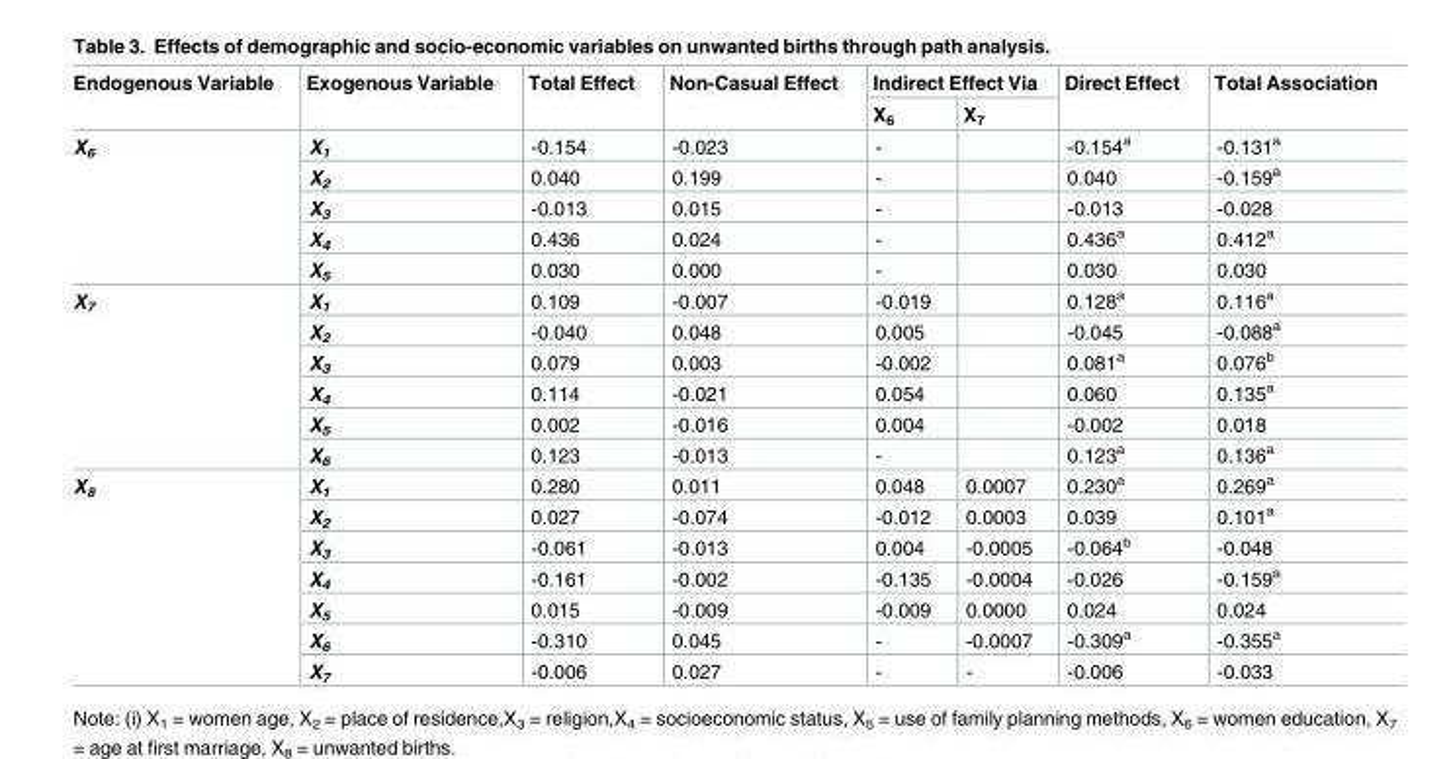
<table><thead><tr><td rowspan="2">Endogenous Variable</td><td rowspan="2">Exogenous Variable</td><td rowspan="2">Total Effect</td><td rowspan="2">Non-Casual Effect</td><td colspan="2">Indirect Effect Via</td><td rowspan="2">Direct Effect</td><td rowspan="2">Total Association</td></tr><tr><td>X<sub>6</sub></td><td>X<sub>7</sub></td></tr></thead><tbody><tr><td rowspan="5">X<sub>6</sub></td><td>X<sub>1</sub></td><td>-0.154</td><td>-0.023</td><td>-</td><td></td><td>-0.154<sup>a</sup></td><td>-0.131<sup>a</sup></td></tr><tr><td>X<sub>2</sub></td><td>0.040</td><td>0.199</td><td>-</td><td></td><td>0.040</td><td>-0.159<sup>a</sup></td></tr><tr><td>X<sub>3</sub></td><td>-0.013</td><td>0.015</td><td>-</td><td></td><td>-0.013</td><td>-0.028</td></tr><tr><td>X<sub>4</sub></td><td>0.436</td><td>0.024</td><td>-</td><td></td><td>0.436<sup>a</sup></td><td>0.412<sup>a</sup></td></tr><tr><td>X<sub>5</sub></td><td>0.030</td><td>0.000</td><td>-</td><td></td><td>0.030</td><td>0.030</td></tr><tr><td rowspan="6">X<sub>7</sub></td><td>X<sub>1</sub></td><td>0.109</td><td>-0.007</td><td>-0.019</td><td></td><td>0.128<sup>a</sup></td><td>0.116<sup>a</sup></td></tr><tr><td>X<sub>2</sub></td><td>-0.040</td><td>0.048</td><td>0.005</td><td></td><td>-0.045</td><td>-0.088<sup>a</sup></td></tr><tr><td>X<sub>3</sub></td><td>0.079</td><td>0.003</td><td>-0.002</td><td></td><td>0.081<sup>a</sup></td><td>0.076<sup>b</sup></td></tr><tr><td>X<sub>4</sub></td><td>0.114</td><td>-0.021</td><td>0.054</td><td></td><td>0.060</td><td>0.135<sup>a</sup></td></tr><tr><td>X<sub>5</sub></td><td>0.002</td><td>-0.016</td><td>0.004</td><td></td><td>-0.002</td><td>0.018</td></tr><tr><td>X<sub>6</sub></td><td>0.123</td><td>-0.013</td><td>-</td><td></td><td>0.123<sup>a</sup></td><td>0.136<sup>a</sup></td></tr><tr><td rowspan="7">X<sub>8</sub></td><td>X<sub>1</sub></td><td>0.280</td><td>0.011</td><td>0.048</td><td>0.0007</td><td>0.230<sup>a</sup></td><td>0.269<sup>a</sup></td></tr><tr><td>X<sub>2</sub></td><td>0.027</td><td>-0.074</td><td>-0.012</td><td>0.0003</td><td>0.039</td><td>0.101<sup>a</sup></td></tr><tr><td>X<sub>3</sub></td><td>-0.061</td><td>-0.013</td><td>0.004</td><td>-0.0005</td><td>-0.064<sup>b</sup></td><td>-0.048</td></tr><tr><td>X<sub>4</sub></td><td>-0.161</td><td>-0.002</td><td>-0.135</td><td>-0.0004</td><td>-0.026</td><td>-0.159<sup>a</sup></td></tr><tr><td>X<sub>5</sub></td><td>0.015</td><td>-0.009</td><td>-0.009</td><td>0.0000</td><td>0.024</td><td>0.024</td></tr><tr><td>X<sub>6</sub></td><td>-0.310</td><td>0.045</td><td>-</td><td>-0.0007</td><td>-0.309<sup>a</sup></td><td>-0.355<sup>a</sup></td></tr><tr><td>X<sub>7</sub></td><td>-0.006</td><td>0.027</td><td>-</td><td>-</td><td>-0.006</td><td>-0.033</td></tr></tbody></table>